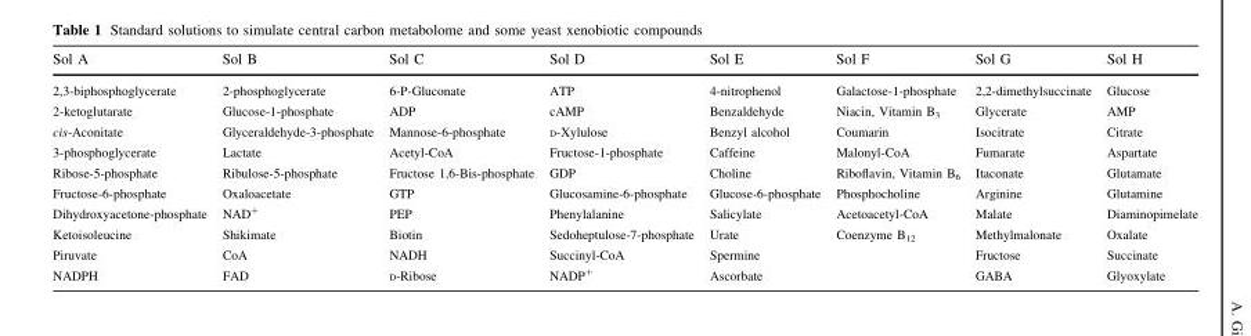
<table><thead><tr><td>Sol A</td><td>Sol B</td><td>Sol C</td><td>Sol D</td><td>Sol E</td><td>Sol F</td><td>Sol G</td><td>Sol H</td></tr></thead><tbody><tr><td>2,3-biphosphoglycerate</td><td>2-phosphoglycerate</td><td>6-P-Gluconate</td><td>ATP</td><td>4-nitrophenol</td><td>Galactose-1-phosphate</td><td>2,2-dimethylsuccinate</td><td>Glucose</td></tr><tr><td>2-ketoglutarate</td><td>Glucose-1-phosphate</td><td>ADP</td><td>cAMP</td><td>Benzaldehyde</td><td>Niacin, Vitamin B<sub>3</sub></td><td>Glycerate</td><td>AMP</td></tr><tr><td>cis-Aconitate</td><td>Glyceraldehyde-3-phosphate</td><td>Mannose-6-phosphate</td><td>D-Xylulose</td><td>Benzyl alcohol</td><td>Coumarin</td><td>Isocitrate</td><td>Citrate</td></tr><tr><td>3-phosphoglycerate</td><td>Lactate</td><td>Acetyl-CoA</td><td>Fructose-1-phosphate</td><td>Caffeine</td><td>Malonyl-CoA</td><td>Fumarate</td><td>Aspartate</td></tr><tr><td>Ribose-5-phosphate</td><td>Ribulose-5-phosphate</td><td>Fructose 1,6-Bis-phosphate</td><td>GDP</td><td>Choline</td><td>Riboflavin, Vitamin B<sub>6</sub></td><td>Itaconate</td><td>Glutamate</td></tr><tr><td>Fructose-6-phosphate</td><td>Oxaloacetate</td><td>GTP</td><td>Glucosamine-6-phosphate</td><td>Glucose-6-phosphate</td><td>Phosphocholine</td><td>Arginine</td><td>Glutamine</td></tr><tr><td>Dihydroxyacetone-phosphate</td><td>NAD<sup>+</sup></td><td>PEP</td><td>Phenylalanine</td><td>Salicylate</td><td>Acetoacetyl-CoA</td><td>Malate</td><td>Diaminopimelate</td></tr><tr><td>Ketoisoleucine</td><td>Shikimate</td><td>Biotin</td><td>Sedoheptulose-7-phosphate</td><td>Urate</td><td>Coenzyme B<sub>12</sub></td><td>Methylmalonate</td><td>Oxalate</td></tr><tr><td>Piruvate</td><td>CoA</td><td>NADH</td><td>Succinyl-CoA</td><td>Spermine</td><td></td><td>Fructose</td><td>Succinate</td></tr><tr><td>NADPH</td><td>FAD</td><td>D-Ribose</td><td>NADP<sup>+</sup></td><td>Ascorbate</td><td></td><td>GABA</td><td>Glyoxylate</td></tr></tbody></table>